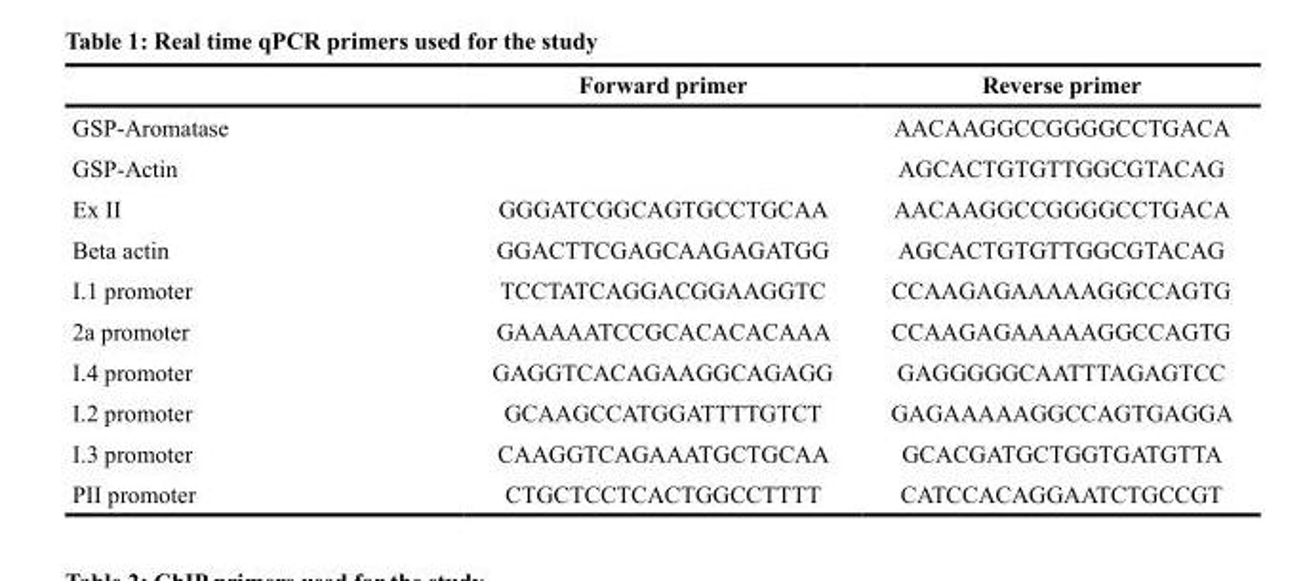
<table><thead><tr><td></td><td>Forward primer</td><td>Reverse primer</td></tr></thead><tbody><tr><td>GSP-Aromatase</td><td></td><td>AACAAGGCCGGGGCCTGACA</td></tr><tr><td>GSP-Actin</td><td></td><td>AGCACTGTGTTGGCGTACAG</td></tr><tr><td>Ex II</td><td>GGGATCGGCAGTGCCTGCAA</td><td>AACAAGGCCGGGGCCTGACA</td></tr><tr><td>Beta actin</td><td>GGACTTCGAGCAAGAGATGG</td><td>AGCACTGTGTTGGCGTACAG</td></tr><tr><td>I.1 promoter</td><td>TCCTATCAGGACGGAAGGTC</td><td>CCAAGAGAAAAAGGCCAGTG</td></tr><tr><td>2a promoter</td><td>GAAAAATCCGCACACACAAA</td><td>CCAAGAGAAAAAGGCCAGTG</td></tr><tr><td>I.4 promoter</td><td>GAGGTCACAGAAGGCAGAGG</td><td>GAGGGGGCAATTTAGAGTCC</td></tr><tr><td>I.2 promoter</td><td>GCAAGCCATGGATTTTGTCT</td><td>GAGAAAAAGGCCAGTGAGGA</td></tr><tr><td>I.3 promoter</td><td>CAAGGTCAGAAATGCTGCAA</td><td>GCACGATGCTGGTGATGTTA</td></tr><tr><td>PII promoter</td><td>CTGCTCCTCACTGGCCTTTT</td><td>CATCCACAGGAATCTGCCGT</td></tr></tbody></table>